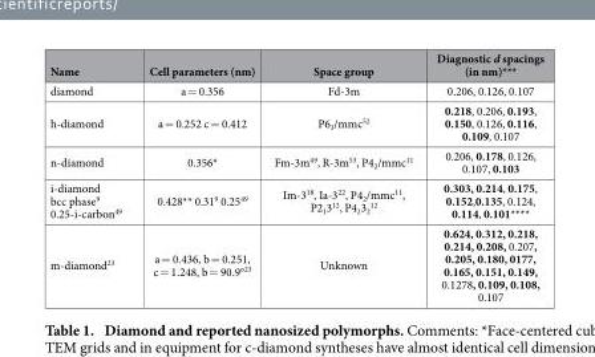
<table><thead><tr><td>Name</td><td>Cell parameters (nm)</td><td>Space group</td><td>Diagnostic d spacings (in nm)***</td></tr></thead><tbody><tr><td>diamond</td><td>a = 0.356</td><td>Fd-3m</td><td>0.206, 0.126, 0.107</td></tr><tr><td>h-diamond</td><td>a = 0.252 c = 0.412</td><td>P6<sub>3</sub>/mmc<sup>52</sup></td><td>0.218, 0.206, 0.193, 0.150, 0.126, 0.116, 0.109, 0.107</td></tr><tr><td>n-diamond</td><td>0.356*</td><td>Fm-3m<sup>49</sup>, R-3m<sup>53</sup>, P4<sub>2</sub>/mmc<sup>11</sup></td><td>0.206, 0.178, 0.126, 0.107, 0.103</td></tr><tr><td>i-diamond bcc phase<sup>9</sup> 0.25-i-carbon<sup>49</sup></td><td>0.428** 0.31<sup>9</sup> 0.25<sup>49</sup></td><td>Im-3<sup>18</sup>, Ia-3<sup>22</sup>, P4<sub>2</sub>/mmc<sup>11</sup>, P2<sub>1</sub>3<sup>12</sup>, P4<sub>2</sub>3<sub>2</sub> <sup>12</sup></td><td>0.303, 0.214, 0.175, 0.152,0.135, 0.124, 0.114, 0.101****</td></tr><tr><td>m-diamond<sup>23</sup></td><td>a = 0.436, b = 0.251, c = 1.248, b = 90.9°<sup>23</sup></td><td>Unknown</td><td>0.624, 0.312, 0.218, 0.214, 0.208, 0.207, 0.205, 0.180, 0177, 0.165, 0.151, 0.149, 0.1278, 0.109, 0.108, 0.107</td></tr></tbody></table>